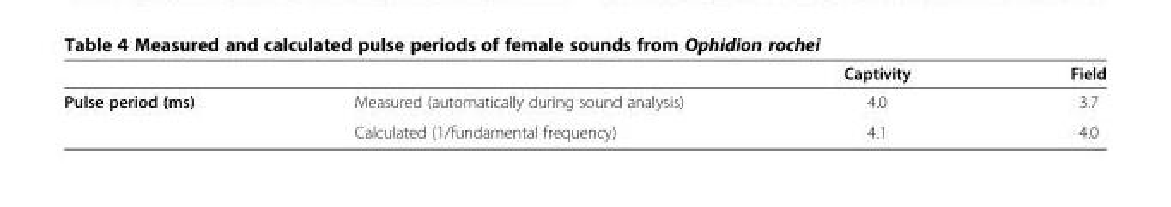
<table><thead><tr><td></td><td></td><td>Captivity</td><td>Field</td></tr></thead><tbody><tr><td rowspan="2">Pulse period (ms)</td><td>Measured (automatically during sound analysis)</td><td>4.0</td><td>3.7</td></tr><tr><td>Calculated (1/fundamental frequency)</td><td>4.1</td><td>4.0</td></tr></tbody></table>